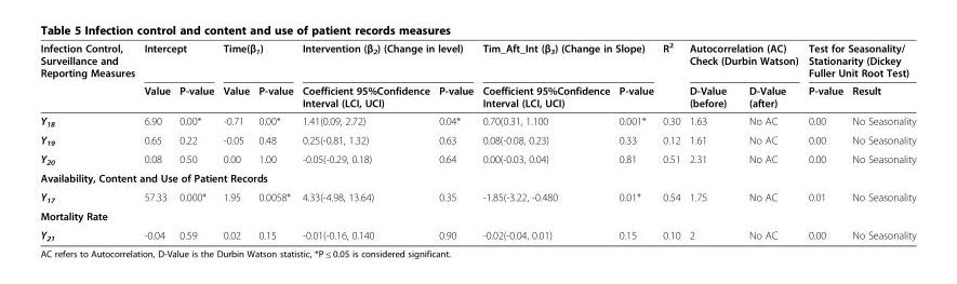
<table><thead><tr><td rowspan="2">Infection Control, Surveillance and Reporting Measures</td><td colspan="2">Intercept</td><td colspan="2">Time(β<sub>1</sub>)</td><td colspan="2">Intervention (β<sub>2</sub>) (Change in level)</td><td colspan="2">Tim_Aft_Int (β<sub>3</sub>) (Change in Slope)</td><td rowspan="2">R<sup>2</sup></td><td colspan="2">Autocorrelation (AC) Check (Durbin Watson)</td><td colspan="2">Test for Seasonality/ Stationarity (Dickey Fuller Unit Root Test)</td></tr><tr><td>Value</td><td>P-value</td><td>Value</td><td>P-value</td><td>Coefficient 95%Confidence Interval (LCI, UCI)</td><td>P-value</td><td>Coefficient 95%Confidence Interval (LCI, UCI)</td><td>P-value</td><td>D-Value (before)</td><td>D-Value (after)</td><td>P-value</td><td>Result</td></tr></thead><tbody><tr><td>Y<sub>18</sub></td><td>6.90</td><td>0.00*</td><td>-0.71</td><td>0.00*</td><td>1.41(0.09, 2.72)</td><td>0.04*</td><td>0.70(0.31, 1.100</td><td>0.001*</td><td>0.30</td><td>1.63</td><td>No AC</td><td>0.00</td><td>No Seasonality</td></tr><tr><td>Y<sub>19</sub></td><td>0.65</td><td>0.22</td><td>-0.05</td><td>0.48</td><td>0.25(-0.81, 1.32)</td><td>0.63</td><td>0.08(-0.08, 0.23)</td><td>0.33</td><td>0.12</td><td>1.61</td><td>No AC</td><td>0.00</td><td>No Seasonality</td></tr><tr><td>Y<sub>20</sub></td><td>0.08</td><td>0.50</td><td>0.00</td><td>1.00</td><td>-0.05(-0.29, 0.18)</td><td>0.64</td><td>0.00(-0.03, 0.04)</td><td>0.81</td><td>0.51</td><td>2.31</td><td>No AC</td><td>0.00</td><td>No Seasonality</td></tr><tr><td colspan="14">Availability, Content and Use of Patient Records</td></tr><tr><td>Y<sub>17</sub></td><td>57.33</td><td>0.000*</td><td>1.95</td><td>0.0058*</td><td>4.33(-4.98, 13.64)</td><td>0.35</td><td>-1.85(-3.22, -0.480</td><td>0.01*</td><td>0.54</td><td>1.75</td><td>No AC</td><td>0.01</td><td>No Seasonality</td></tr><tr><td colspan="14">Mortality Rate</td></tr><tr><td>Y<sub>21</sub></td><td>-0.04</td><td>0.59</td><td>0.02</td><td>0.15</td><td>-0.01(-0.16, 0.140</td><td>0.90</td><td>-0.02(-0.04, 0.01)</td><td>0.15</td><td>0.10</td><td>2</td><td>No AC</td><td>0.00</td><td>No Seasonality</td></tr></tbody></table>